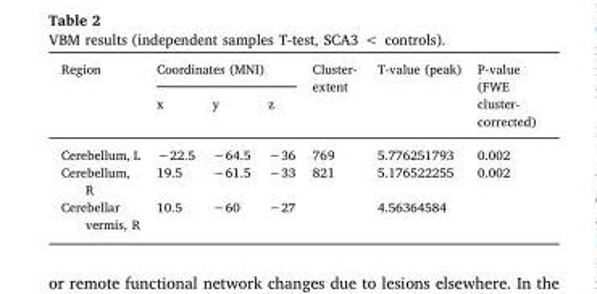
<table><thead><tr><td rowspan="2">Region</td><td colspan="3">Coordinates (MNI)</td><td rowspan="2">Cluster- extent</td><td rowspan="2">T-value (peak)</td><td rowspan="2">P-value (FWE cluster- corrected)</td></tr><tr><td>x</td><td>y</td><td>z</td></tr></thead><tbody><tr><td>Cerebellum, L</td><td>−22.5</td><td>−64.5</td><td>−36</td><td>769</td><td>5.776251793</td><td>0.002</td></tr><tr><td>Cerebellum, R</td><td>19.5</td><td>−61.5</td><td>−33</td><td>821</td><td>5.176522255</td><td>0.002</td></tr><tr><td>Cerebellar vermis, R</td><td>10.5</td><td>−60</td><td>−27</td><td></td><td>4.56364584</td><td></td></tr></tbody></table>